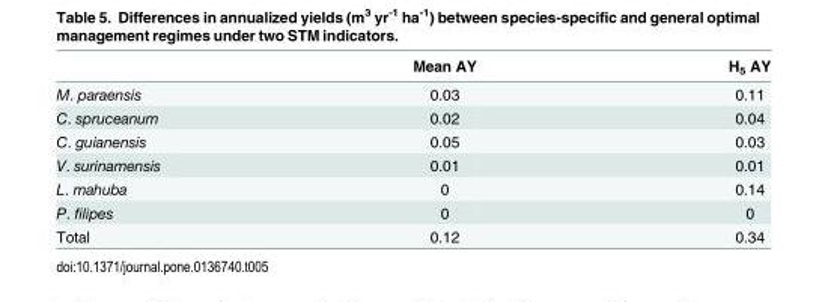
<table><thead><tr><td></td><td>Mean AY</td><td>H<sub>5</sub> AY</td></tr></thead><tbody><tr><td>M. paraensis</td><td>0.03</td><td>0.11</td></tr><tr><td>C. spruceanum</td><td>0.02</td><td>0.04</td></tr><tr><td>C. guianensis</td><td>0.05</td><td>0.03</td></tr><tr><td>V. surinamensis</td><td>0.01</td><td>0.01</td></tr><tr><td>L. mahuba</td><td>0</td><td>0.14</td></tr><tr><td>P. filipes</td><td>0</td><td>0</td></tr><tr><td>Total</td><td>0.12</td><td>0.34</td></tr></tbody></table>